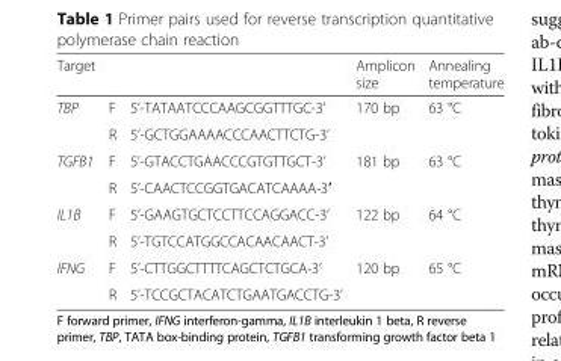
<table><thead><tr><td>Target</td><td></td><td></td><td>Amplicon size</td><td>Annealing temperature</td></tr></thead><tbody><tr><td rowspan="2">TBP</td><td>F</td><td>5’-TATAATCCCAAGCGGTTTGC-3’</td><td>170 bp</td><td>63 °C</td></tr><tr><td>R</td><td>5’-GCTGGAAAACCCAACTTCTG-3’</td><td></td><td></td></tr><tr><td rowspan="2">TGFB1</td><td>F</td><td>5’-GTACCTGAACCCGTGTTGCT-3’</td><td>181 bp</td><td>63 °C</td></tr><tr><td>R</td><td>5’-CAACTCCGGTGACATCAAAA-3′</td><td></td><td></td></tr><tr><td rowspan="2">IL1B</td><td>F</td><td>5’-GAAGTGCTCCTTCCAGGACC-3’</td><td>122 bp</td><td>64 °C</td></tr><tr><td>R</td><td>5’-TGTCCATGGCCACAACAACT-3’</td><td></td><td></td></tr><tr><td rowspan="2">IFNG</td><td>F</td><td>5’-CTTGGCTTTTCAGCTCTGCA-3’</td><td>120 bp</td><td>65 °C</td></tr><tr><td>R</td><td>5’-TCCGCTACATCTGAATGACCTG-3’</td><td></td><td></td></tr></tbody></table>